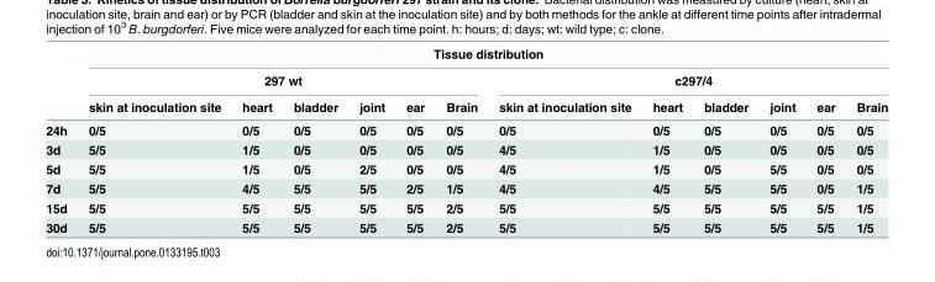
<table><thead><tr><td rowspan="3"></td><td colspan="12">Tissue distribution</td></tr><tr><td colspan="6">297 wt</td><td colspan="6">c297/4</td></tr><tr><td>skin at inoculation site</td><td>heart</td><td>bladder</td><td>joint</td><td>ear</td><td>Brain</td><td>skin at inoculation site</td><td>heart</td><td>bladder</td><td>joint</td><td>ear</td><td>Brain</td></tr></thead><tbody><tr><td>24h</td><td>0/5</td><td>0/5</td><td>0/5</td><td>0/5</td><td>0/5</td><td>0/5</td><td>0/5</td><td>0/5</td><td>0/5</td><td>0/5</td><td>0/5</td><td>0/5</td></tr><tr><td>3d</td><td>5/5</td><td>1/5</td><td>0/5</td><td>0/5</td><td>0/5</td><td>0/5</td><td>4/5</td><td>1/5</td><td>0/5</td><td>0/5</td><td>0/5</td><td>0/5</td></tr><tr><td>5d</td><td>5/5</td><td>1/5</td><td>0/5</td><td>2/5</td><td>0/5</td><td>0/5</td><td>4/5</td><td>1/5</td><td>0/5</td><td>5/5</td><td>0/5</td><td>0/5</td></tr><tr><td>7d</td><td>5/5</td><td>4/5</td><td>5/5</td><td>5/5</td><td>2/5</td><td>1/5</td><td>4/5</td><td>4/5</td><td>5/5</td><td>5/5</td><td>0/5</td><td>1/5</td></tr><tr><td>15d</td><td>5/5</td><td>5/5</td><td>5/5</td><td>5/5</td><td>5/5</td><td>2/5</td><td>5/5</td><td>5/5</td><td>5/5</td><td>5/5</td><td>5/5</td><td>1/5</td></tr><tr><td>30d</td><td>5/5</td><td>5/5</td><td>5/5</td><td>5/5</td><td>5/5</td><td>2/5</td><td>5/5</td><td>5/5</td><td>5/5</td><td>5/5</td><td>5/5</td><td>1/5</td></tr></tbody></table>